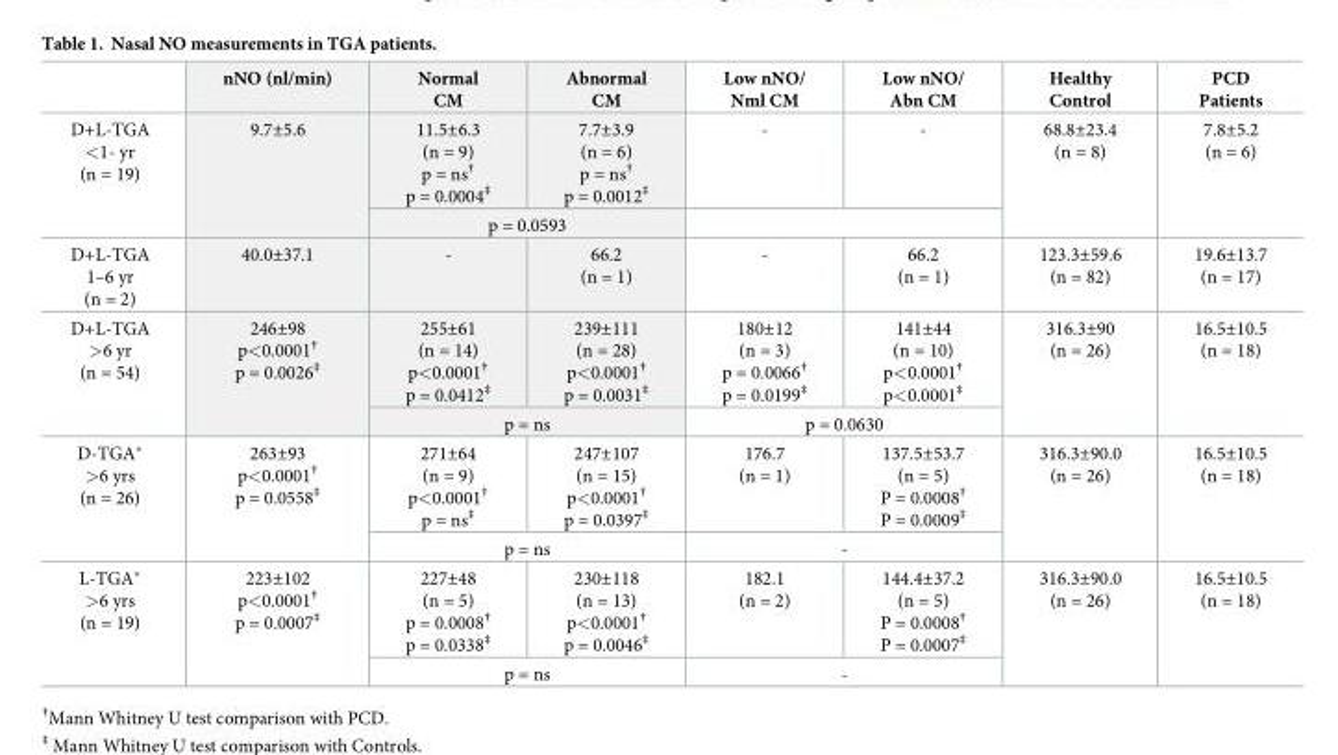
<table><thead><tr><td></td><td>nNO (nl/min)</td><td>Normal CM</td><td>Abnormal CM</td><td>Low nNO/ Nml CM</td><td>Low nNO/ Abn CM</td><td>Healthy Control</td><td>PCD Patients</td></tr></thead><tbody><tr><td rowspan="2">D+L-TGA &lt;1- yr (n = 19)</td><td rowspan="2">9.7±5.6</td><td>11.5±6.3 (n = 9) p = ns<sup>†</sup> p = 0.0004<sup>‡</sup></td><td>7.7±3.9 (n = 6) p = ns<sup>†</sup> p = 0.0012<sup>‡</sup></td><td>-</td><td>-</td><td rowspan="2">68.8±23.4 (n = 8)</td><td rowspan="2">7.8±5.2 (n = 6)</td></tr><tr><td colspan="2">p = 0.0593</td><td colspan="2"></td></tr><tr><td>D+L-TGA 1–6 yr (n = 2)</td><td>40.0±37.1</td><td>-</td><td>66.2 (n = 1)</td><td>-</td><td>66.2 (n = 1)</td><td>123.3±59.6 (n = 82)</td><td>19.6±13.7 (n = 17)</td></tr><tr><td rowspan="2">D+L-TGA &gt;6 yr (n = 54)</td><td rowspan="2">246±98 p&lt;0.0001<sup>†</sup> p = 0.0026<sup>‡</sup></td><td>255±61 (n = 14) p&lt;0.0001<sup>†</sup> p = 0.0412<sup>‡</sup></td><td>239±111 (n = 28) p&lt;0.0001<sup>†</sup> p = 0.0031<sup>‡</sup></td><td>180±12 (n = 3) p = 0.0066<sup>†</sup> p = 0.0199<sup>‡</sup></td><td>141±44 (n = 10) p&lt;0.0001<sup>†</sup> p&lt;0.0001<sup>‡</sup></td><td rowspan="2">316.3±90 (n = 26)</td><td rowspan="2">16.5±10.5 (n = 18)</td></tr><tr><td colspan="2">p = ns</td><td colspan="2">p = 0.0630</td></tr><tr><td rowspan="2">D-TGA* &gt;6 yrs (n = 26)</td><td rowspan="2">263±93 p&lt;0.0001<sup>†</sup> p = 0.0558<sup>‡</sup></td><td>271±64 (n = 9) p&lt;0.0001<sup>†</sup> p = ns<sup>‡</sup></td><td>247±107 (n = 15) p&lt;0.0001<sup>†</sup> p = 0.0397<sup>‡</sup></td><td>176.7 (n = 1)</td><td>137.5±53.7 (n = 5) P = 0.0008<sup>†</sup> P = 0.0009<sup>‡</sup></td><td rowspan="2">316.3±90.0 (n = 26)</td><td rowspan="2">16.5±10.5 (n = 18)</td></tr><tr><td colspan="2">p = ns</td><td colspan="2">-</td></tr><tr><td rowspan="2">L-TGA* &gt;6 yrs (n = 19)</td><td rowspan="2">223±102 p&lt;0.0001<sup>†</sup> p = 0.0007<sup>‡</sup></td><td>227±48 (n = 5) p = 0.0008<sup>†</sup> p = 0.0338<sup>‡</sup></td><td>230±118 (n = 13) p&lt;0.0001<sup>†</sup> p = 0.0046<sup>‡</sup></td><td>182.1 (n = 2)</td><td>144.4±37.2 (n = 5) P = 0.0008<sup>†</sup> P = 0.0007<sup>‡</sup></td><td rowspan="2">316.3±90.0 (n = 26)</td><td rowspan="2">16.5±10.5 (n = 18)</td></tr><tr><td colspan="2">p = ns</td><td colspan="2">-</td></tr></tbody></table>